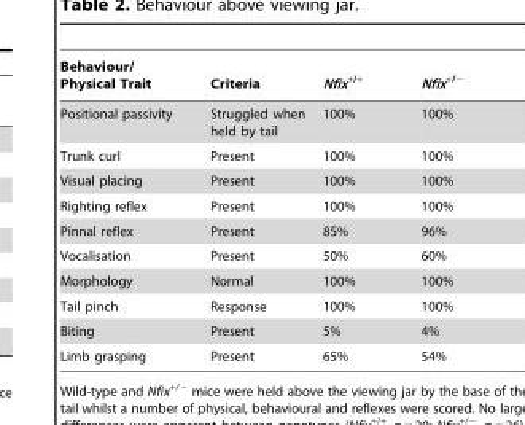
<table><thead><tr><td>Behaviour/ Physical Trait</td><td>Criteria</td><td>Nfix<sup>+/+</sup></td><td>Nfix<sup>+/−</sup></td></tr></thead><tbody><tr><td>Positional passivity</td><td>Struggled when held by tail</td><td>100%</td><td>100%</td></tr><tr><td>Trunk curl</td><td>Present</td><td>100%</td><td>100%</td></tr><tr><td>Visual placing</td><td>Present</td><td>100%</td><td>100%</td></tr><tr><td>Righting reflex</td><td>Present</td><td>100%</td><td>100%</td></tr><tr><td>Pinnal reflex</td><td>Present</td><td>85%</td><td>96%</td></tr><tr><td>Vocalisation</td><td>Present</td><td>50%</td><td>60%</td></tr><tr><td>Morphology</td><td>Normal</td><td>100%</td><td>100%</td></tr><tr><td>Tail pinch</td><td>Response</td><td>100%</td><td>100%</td></tr><tr><td>Biting</td><td>Present</td><td>5%</td><td>4%</td></tr><tr><td>Limb grasping</td><td>Present</td><td>65%</td><td>54%</td></tr></tbody></table>